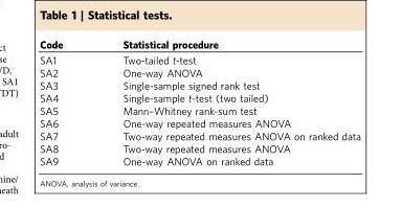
<table><thead><tr><td>Code</td><td>Statistical procedure</td></tr></thead><tbody><tr><td>SA1</td><td>Two-tailed t-test</td></tr><tr><td>SA2</td><td>One-way ANOVA</td></tr><tr><td>SA3</td><td>Single-sample signed rank test</td></tr><tr><td>SA4</td><td>Single-sample t-test (two tailed)</td></tr><tr><td>SA5</td><td>Mann–Whitney rank-sum test</td></tr><tr><td>SA6</td><td>One-way repeated measures ANOVA</td></tr><tr><td>SA7</td><td>Two-way repeated measures ANOVA on ranked data</td></tr><tr><td>SA8</td><td>Two-way repeated measures ANOVA</td></tr><tr><td>SA9</td><td>One-way ANOVA on ranked data</td></tr></tbody></table>